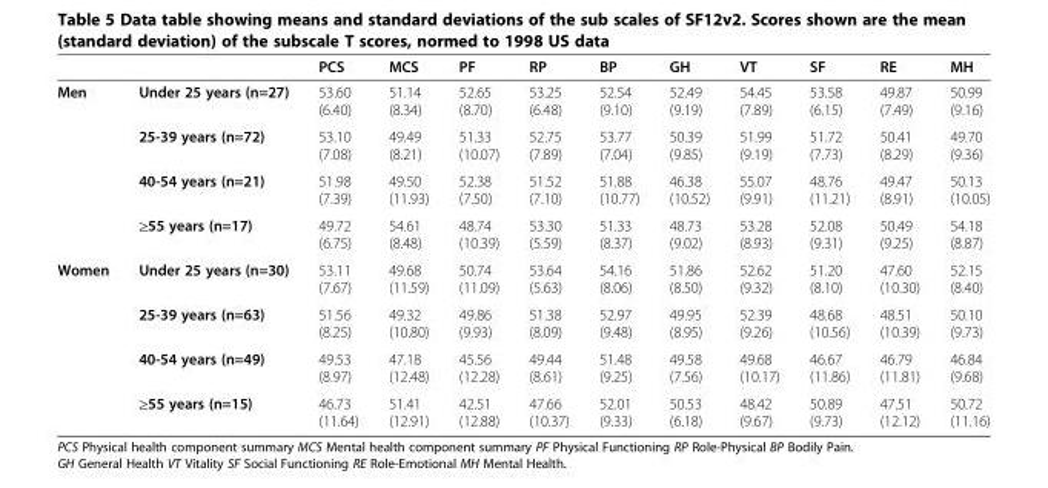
<table><thead><tr><td></td><td></td><td>PCS</td><td>MCS</td><td>PF</td><td>RP</td><td>BP</td><td>GH</td><td>VT</td><td>SF</td><td>RE</td><td>MH</td></tr></thead><tbody><tr><td rowspan="4">Men</td><td>Under 25 years (n=27)</td><td>53.60 (6.40)</td><td>51.14 (8.34)</td><td>52.65 (8.70)</td><td>53.25 (6.48)</td><td>52.54 (9.10)</td><td>52.49 (9.19)</td><td>54.45 (7.89)</td><td>53.58 (6.15)</td><td>49.87 (7.49)</td><td>50.99 (9.16)</td></tr><tr><td>25-39 years (n=72)</td><td>53.10 (7.08)</td><td>49.49 (8.21)</td><td>51.33 (10.07)</td><td>52.75 (7.89)</td><td>53.77 (7.04)</td><td>50.39 (9.85)</td><td>51.99 (9.19)</td><td>51.72 (7.73)</td><td>50.41 (8.29)</td><td>49.70 (9.36)</td></tr><tr><td>40-54 years (n=21)</td><td>51.98 (7.39)</td><td>49.50 (11.93)</td><td>52.38 (7.50)</td><td>51.52 (7.10)</td><td>51.88 (10.77)</td><td>46.38 (10.52)</td><td>55.07 (9.91)</td><td>48.76 (11.21)</td><td>49.47 (8.91)</td><td>50.13 (10.05)</td></tr><tr><td>≥55 years (n=17)</td><td>49.72 (6.75)</td><td>54.61 (8.48)</td><td>48.74 (10.39)</td><td>53.30 (5.59)</td><td>51.33 (8.37)</td><td>48.73 (9.02)</td><td>53.28 (8.93)</td><td>52.08 (9.31)</td><td>50.49 (9.25)</td><td>54.18 (8.87)</td></tr><tr><td rowspan="4">Women</td><td>Under 25 years (n=30)</td><td>53.11 (7.67)</td><td>49.68 (11.59)</td><td>50.74 (11.09)</td><td>53.64 (5.63)</td><td>54.16 (8.06)</td><td>51.86 (8.50)</td><td>52.62 (9.32)</td><td>51.20 (8.10)</td><td>47.60 (10.30)</td><td>52.15 (8.40)</td></tr><tr><td>25-39 years (n=63)</td><td>51.56 (8.25)</td><td>49.32 (10.80)</td><td>49.86 (9.93)</td><td>51.38 (8.09)</td><td>52.97 (9.48)</td><td>49.95 (8.95)</td><td>52.39 (9.26)</td><td>48.68 (10.56)</td><td>48.51 (10.39)</td><td>50.10 (9.73)</td></tr><tr><td>40-54 years (n=49)</td><td>49.53 (8.97)</td><td>47.18 (12.48)</td><td>45.56 (12.28)</td><td>49.44 (8.61)</td><td>51.48 (9.25)</td><td>49.58 (7.56)</td><td>49.68 (10.17)</td><td>46.67 (11.86)</td><td>46.79 (11.81)</td><td>46.84 (9.68)</td></tr><tr><td>≥55 years (n=15)</td><td>46.73 (11.64)</td><td>51.41 (12.91)</td><td>42.51 (12.88)</td><td>47.66 (10.37)</td><td>52.01 (9.33)</td><td>50.53 (6.18)</td><td>48.42 (9.67)</td><td>50.89 (9.73)</td><td>47.51 (12.12)</td><td>50.72 (11.16)</td></tr></tbody></table>